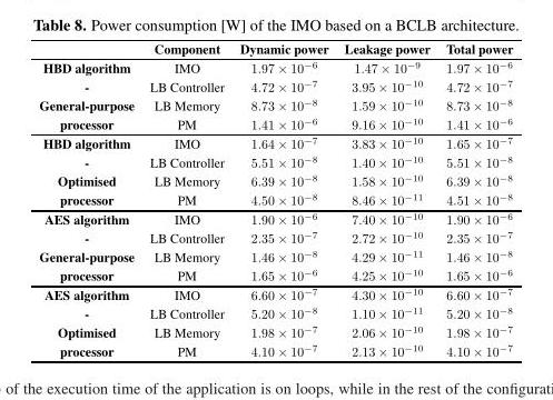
<table><thead><tr><td></td><td>Component</td><td>Dynamic power</td><td>Leakage power</td><td>Total power</td></tr></thead><tbody><tr><td>HBD algorithm</td><td>IMO</td><td>1.97 × 10<sup>−6</sup></td><td>1.47 × 10<sup>−9</sup></td><td>1.97 × 10<sup>−6</sup></td></tr><tr><td>-</td><td>LB Controller</td><td>4.72 × 10<sup>−7</sup></td><td>3.95 × 10<sup>−10</sup></td><td>4.72 × 10<sup>−7</sup></td></tr><tr><td>General-purpose</td><td>LB Memory</td><td>8.73 × 10<sup>−8</sup></td><td>1.59 × 10<sup>−10</sup></td><td>8.73 × 10<sup>−8</sup></td></tr><tr><td>processor</td><td>PM</td><td>1.41 × 10<sup>−6</sup></td><td>9.16 × 10<sup>−10</sup></td><td>1.41 × 10<sup>−6</sup></td></tr><tr><td>HBD algorithm</td><td>IMO</td><td>1.64 × 10<sup>−7</sup></td><td>3.83 × 10<sup>−10</sup></td><td>1.65 × 10<sup>−7</sup></td></tr><tr><td>-</td><td>LB Controller</td><td>5.51 × 10<sup>−8</sup></td><td>1.40 × 10<sup>−10</sup></td><td>5.51 × 10<sup>−8</sup></td></tr><tr><td>Optimised</td><td>LB Memory</td><td>6.39 × 10<sup>−8</sup></td><td>1.58 × 10<sup>−10</sup></td><td>6.39 × 10<sup>−8</sup></td></tr><tr><td>processor</td><td>PM</td><td>4.50 × 10<sup>−8</sup></td><td>8.46 × 10<sup>−11</sup></td><td>4.51 × 10<sup>−8</sup></td></tr><tr><td>AES algorithm</td><td>IMO</td><td>1.90 × 10<sup>−6</sup></td><td>7.40 × 10<sup>−10</sup></td><td>1.90 × 10<sup>−6</sup></td></tr><tr><td>-</td><td>LB Controller</td><td>2.35 × 10<sup>−7</sup></td><td>2.72 × 10<sup>−10</sup></td><td>2.35 × 10<sup>−7</sup></td></tr><tr><td>General-purpose</td><td>LB Memory</td><td>1.46 × 10<sup>−8</sup></td><td>4.29 × 10<sup>−11</sup></td><td>1.46 × 10<sup>−8</sup></td></tr><tr><td>processor</td><td>PM</td><td>1.65 × 10<sup>−6</sup></td><td>4.25 × 10<sup>−10</sup></td><td>1.65 × 10<sup>−6</sup></td></tr><tr><td>AES algorithm</td><td>IMO</td><td>6.60 × 10<sup>−7</sup></td><td>4.30 × 10<sup>−10</sup></td><td>6.60 × 10<sup>−7</sup></td></tr><tr><td>-</td><td>LB Controller</td><td>5.20 × 10<sup>−8</sup></td><td>1.10 × 10<sup>−11</sup></td><td>5.20 × 10<sup>−8</sup></td></tr><tr><td>Optimised</td><td>LB Memory</td><td>1.98 × 10<sup>−7</sup></td><td>2.06 × 10<sup>−10</sup></td><td>1.98 × 10<sup>−7</sup></td></tr><tr><td>processor</td><td>PM</td><td>4.10 × 10<sup>−7</sup></td><td>2.13 × 10<sup>−10</sup></td><td>4.10 × 10<sup>−7</sup></td></tr></tbody></table>